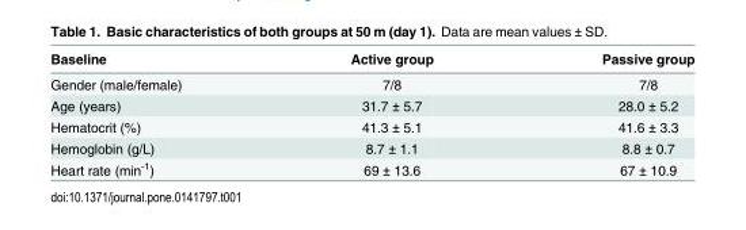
<table><thead><tr><td>Baseline</td><td>Active group</td><td>Passive group</td></tr></thead><tbody><tr><td>Gender (male/female)</td><td>7/8</td><td>7/8</td></tr><tr><td>Age (years)</td><td>31.7 ± 5.7</td><td>28.0 ± 5.2</td></tr><tr><td>Hematocrit (%)</td><td>41.3 ± 5.1</td><td>41.6 ± 3.3</td></tr><tr><td>Hemoglobin (g/L)</td><td>8.7 ± 1.1</td><td>8.8 ± 0.7</td></tr><tr><td>Heart rate (min<sup>-1</sup>)</td><td>69 ± 13.6</td><td>67 ± 10.9</td></tr></tbody></table>